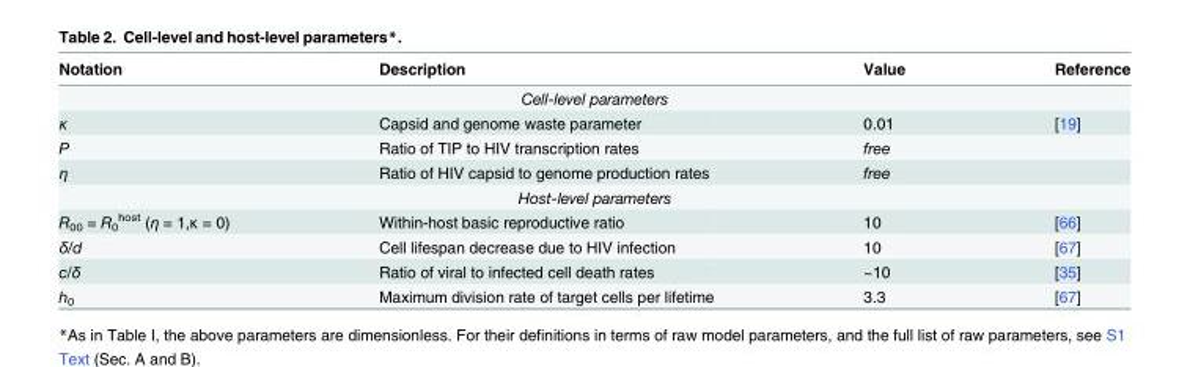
<table><thead><tr><td>Notation</td><td>Description</td><td>Value</td><td>Reference</td></tr></thead><tbody><tr><td colspan="4">Cell-level parameters</td></tr><tr><td>κ</td><td>Capsid and genome waste parameter</td><td>0.01</td><td>[19]</td></tr><tr><td>P</td><td>Ratio of TIP to HIV transcription rates</td><td>free</td><td></td></tr><tr><td>η</td><td>Ratio of HIV capsid to genome production rates</td><td>free</td><td></td></tr><tr><td colspan="4">Host-level parameters</td></tr><tr><td>R<sub>00</sub> = R<sub>0</sub> <sup>host</sup> (η = 1,κ = 0)</td><td>Within-host basic reproductive ratio</td><td>10</td><td>[66]</td></tr><tr><td>δ/d</td><td>Cell lifespan decrease due to HIV infection</td><td>10</td><td>[67]</td></tr><tr><td>c/δ</td><td>Ratio of viral to infected cell death rates</td><td>~10</td><td>[35]</td></tr><tr><td>h<sub>0</sub></td><td>Maximum division rate of target cells per lifetime</td><td>3.3</td><td>[67]</td></tr></tbody></table>